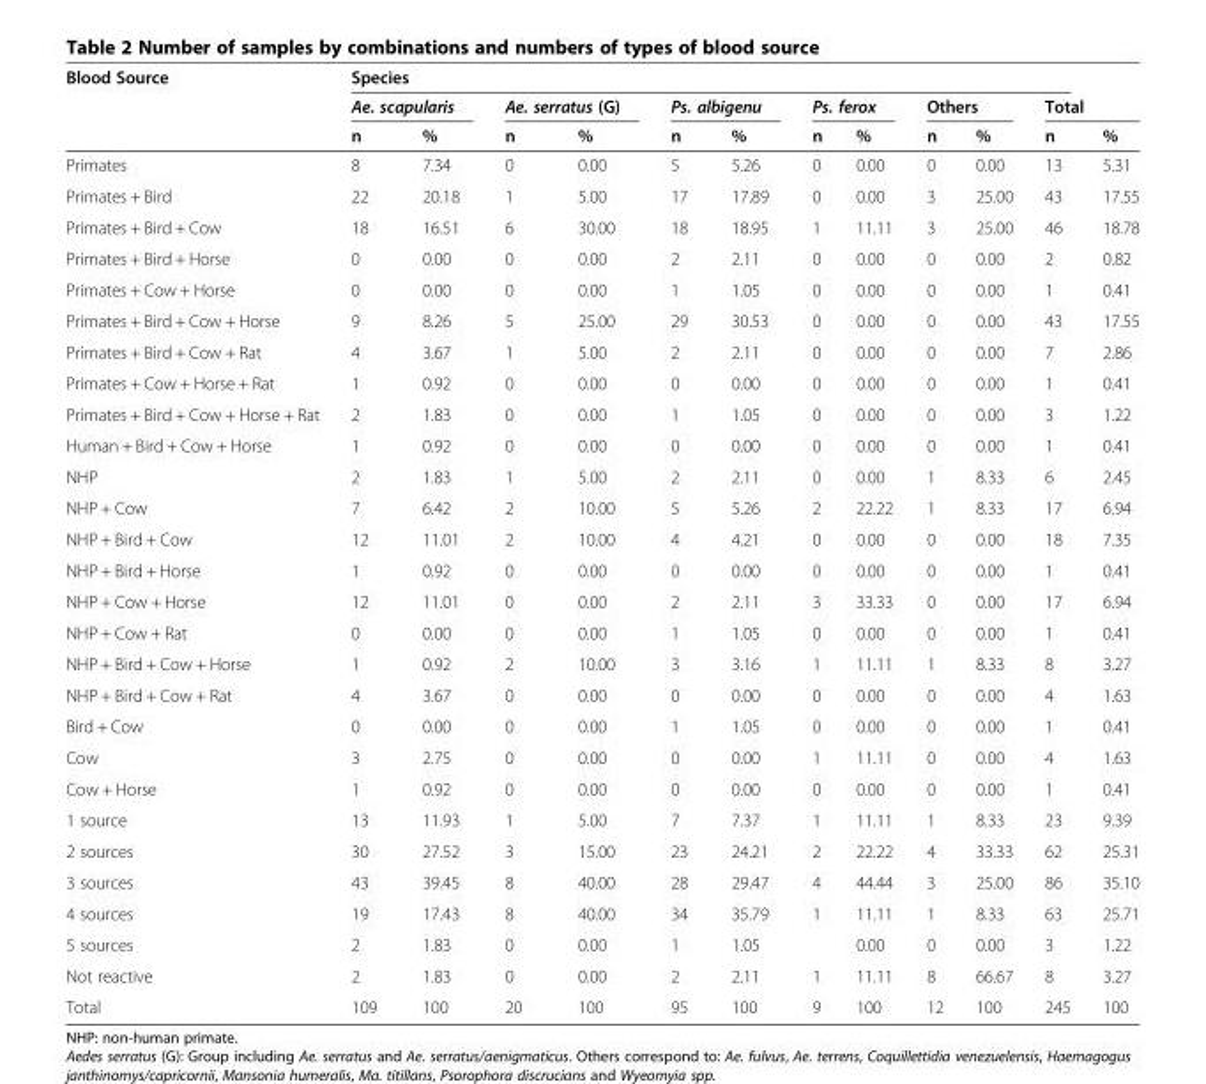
<table><thead><tr><td rowspan="3">Blood Source</td><td colspan="11">Species</td><td></td></tr><tr><td colspan="2">Ae. scapularis</td><td colspan="2">Ae. serratus (G)</td><td colspan="2">Ps. albigenu</td><td colspan="2">Ps. ferox</td><td colspan="2">Others</td><td colspan="2">Total</td></tr><tr><td>n</td><td>%</td><td>n</td><td>%</td><td>n</td><td>%</td><td>n</td><td>%</td><td>n</td><td>%</td><td>n</td><td>%</td></tr></thead><tbody><tr><td>Primates</td><td>8</td><td>7.34</td><td>0</td><td>0.00</td><td>5</td><td>5.26</td><td>0</td><td>0.00</td><td>0</td><td>0.00</td><td>13</td><td>5.31</td></tr><tr><td>Primates + Bird</td><td>22</td><td>20.18</td><td>1</td><td>5.00</td><td>17</td><td>17.89</td><td>0</td><td>0.00</td><td>3</td><td>25.00</td><td>43</td><td>17.55</td></tr><tr><td>Primates + Bird + Cow</td><td>18</td><td>16.51</td><td>6</td><td>30.00</td><td>18</td><td>18.95</td><td>1</td><td>11.11</td><td>3</td><td>25.00</td><td>46</td><td>18.78</td></tr><tr><td>Primates + Bird + Horse</td><td>0</td><td>0.00</td><td>0</td><td>0.00</td><td>2</td><td>2.11</td><td>0</td><td>0.00</td><td>0</td><td>0.00</td><td>2</td><td>0.82</td></tr><tr><td>Primates + Cow + Horse</td><td>0</td><td>0.00</td><td>0</td><td>0.00</td><td>1</td><td>1.05</td><td>0</td><td>0.00</td><td>0</td><td>0.00</td><td>1</td><td>0.41</td></tr><tr><td>Primates + Bird + Cow + Horse</td><td>9</td><td>8.26</td><td>5</td><td>25.00</td><td>29</td><td>30.53</td><td>0</td><td>0.00</td><td>0</td><td>0.00</td><td>43</td><td>17.55</td></tr><tr><td>Primates + Bird + Cow + Rat</td><td>4</td><td>3.67</td><td>1</td><td>5.00</td><td>2</td><td>2.11</td><td>0</td><td>0.00</td><td>0</td><td>0.00</td><td>7</td><td>2.86</td></tr><tr><td>Primates + Cow + Horse + Rat</td><td>1</td><td>0.92</td><td>0</td><td>0.00</td><td>0</td><td>0.00</td><td>0</td><td>0.00</td><td>0</td><td>0.00</td><td>1</td><td>0.41</td></tr><tr><td>Primates + Bird + Cow + Horse + Rat</td><td>2</td><td>1.83</td><td>0</td><td>0.00</td><td>1</td><td>1.05</td><td>0</td><td>0.00</td><td>0</td><td>0.00</td><td>3</td><td>1.22</td></tr><tr><td>Human + Bird + Cow + Horse</td><td>1</td><td>0.92</td><td>0</td><td>0.00</td><td>0</td><td>0.00</td><td>0</td><td>0.00</td><td>0</td><td>0.00</td><td>1</td><td>0.41</td></tr><tr><td>NHP</td><td>2</td><td>1.83</td><td>1</td><td>5.00</td><td>2</td><td>2.11</td><td>0</td><td>0.00</td><td>1</td><td>8.33</td><td>6</td><td>2.45</td></tr><tr><td>NHP + Cow</td><td>7</td><td>6.42</td><td>2</td><td>10.00</td><td>5</td><td>5.26</td><td>2</td><td>22.22</td><td>1</td><td>8.33</td><td>17</td><td>6.94</td></tr><tr><td>NHP + Bird + Cow</td><td>12</td><td>11.01</td><td>2</td><td>10.00</td><td>4</td><td>4.21</td><td>0</td><td>0.00</td><td>0</td><td>0.00</td><td>18</td><td>7.35</td></tr><tr><td>NHP + Bird + Horse</td><td>1</td><td>0.92</td><td>0</td><td>0.00</td><td>0</td><td>0.00</td><td>0</td><td>0.00</td><td>0</td><td>0.00</td><td>1</td><td>0.41</td></tr><tr><td>NHP + Cow + Horse</td><td>12</td><td>11.01</td><td>0</td><td>0.00</td><td>2</td><td>2.11</td><td>3</td><td>33.33</td><td>0</td><td>0.00</td><td>17</td><td>6.94</td></tr><tr><td>NHP + Cow + Rat</td><td>0</td><td>0.00</td><td>0</td><td>0.00</td><td>1</td><td>1.05</td><td>0</td><td>0.00</td><td>0</td><td>0.00</td><td>1</td><td>0.41</td></tr><tr><td>NHP + Bird + Cow + Horse</td><td>1</td><td>0.92</td><td>2</td><td>10.00</td><td>3</td><td>3.16</td><td>1</td><td>11.11</td><td>1</td><td>8.33</td><td>8</td><td>3.27</td></tr><tr><td>NHP + Bird + Cow + Rat</td><td>4</td><td>3.67</td><td>0</td><td>0.00</td><td>0</td><td>0.00</td><td>0</td><td>0.00</td><td>0</td><td>0.00</td><td>4</td><td>1.63</td></tr><tr><td>Bird + Cow</td><td>0</td><td>0.00</td><td>0</td><td>0.00</td><td>1</td><td>1.05</td><td>0</td><td>0.00</td><td>0</td><td>0.00</td><td>1</td><td>0.41</td></tr><tr><td>Cow</td><td>3</td><td>2.75</td><td>0</td><td>0.00</td><td>0</td><td>0.00</td><td>1</td><td>11.11</td><td>0</td><td>0.00</td><td>4</td><td>1.63</td></tr><tr><td>Cow + Horse</td><td>1</td><td>0.92</td><td>0</td><td>0.00</td><td>0</td><td>0.00</td><td>0</td><td>0.00</td><td>0</td><td>0.00</td><td>1</td><td>0.41</td></tr><tr><td>1 source</td><td>13</td><td>11.93</td><td>1</td><td>5.00</td><td>7</td><td>7.37</td><td>1</td><td>11.11</td><td>1</td><td>8.33</td><td>23</td><td>9.39</td></tr><tr><td>2 sources</td><td>30</td><td>27.52</td><td>3</td><td>15.00</td><td>23</td><td>24.21</td><td>2</td><td>22.22</td><td>4</td><td>33.33</td><td>62</td><td>25.31</td></tr><tr><td>3 sources</td><td>43</td><td>39.45</td><td>8</td><td>40.00</td><td>28</td><td>29.47</td><td>4</td><td>44.44</td><td>3</td><td>25.00</td><td>86</td><td>35.10</td></tr><tr><td>4 sources</td><td>19</td><td>17.43</td><td>8</td><td>40.00</td><td>34</td><td>35.79</td><td>1</td><td>11.11</td><td>1</td><td>8.33</td><td>63</td><td>25.71</td></tr><tr><td>5 sources</td><td>2</td><td>1.83</td><td>0</td><td>0.00</td><td>1</td><td>1.05</td><td></td><td>0.00</td><td>0</td><td>0.00</td><td>3</td><td>1.22</td></tr><tr><td>Not reactive</td><td>2</td><td>1.83</td><td>0</td><td>0.00</td><td>2</td><td>2.11</td><td>1</td><td>11.11</td><td>8</td><td>66.67</td><td>8</td><td>3.27</td></tr><tr><td>Total</td><td>109</td><td>100</td><td>20</td><td>100</td><td>95</td><td>100</td><td>9</td><td>100</td><td>12</td><td>100</td><td>245</td><td>100</td></tr></tbody></table>